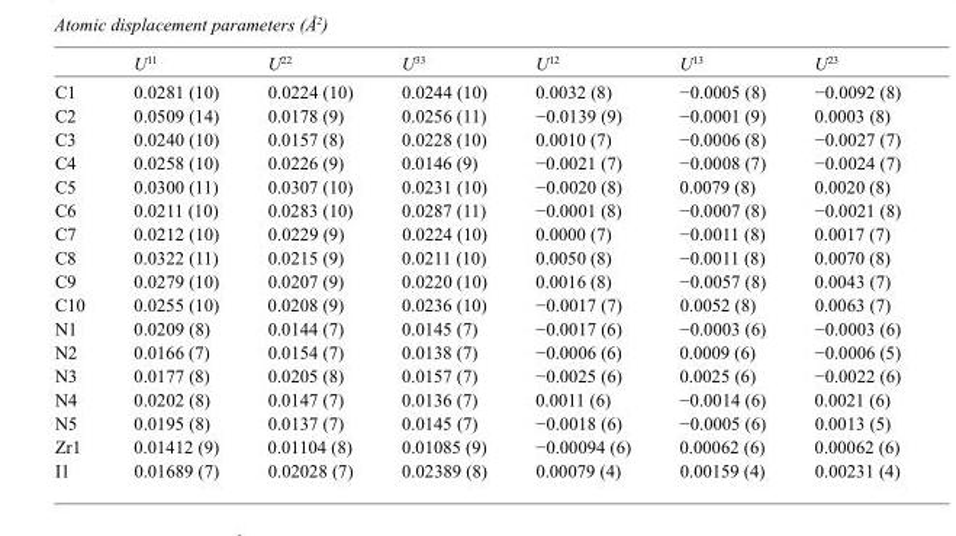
<table><thead><tr><td></td><td>U<sup>11</sup></td><td>U<sup>22</sup></td><td>U<sup>33</sup></td><td>U<sup>12</sup></td><td>U<sup>13</sup></td><td>U<sup>23</sup></td></tr></thead><tbody><tr><td>C1</td><td>0.0281 (10)</td><td>0.0224 (10)</td><td>0.0244 (10)</td><td>0.0032 (8)</td><td>−0.0005 (8)</td><td>−0.0092 (8)</td></tr><tr><td>C2</td><td>0.0509 (14)</td><td>0.0178 (9)</td><td>0.0256 (11)</td><td>−0.0139 (9)</td><td>−0.0001 (9)</td><td>0.0003 (8)</td></tr><tr><td>C3</td><td>0.0240 (10)</td><td>0.0157 (8)</td><td>0.0228 (10)</td><td>0.0010 (7)</td><td>−0.0006 (8)</td><td>−0.0027 (7)</td></tr><tr><td>C4</td><td>0.0258 (10)</td><td>0.0226 (9)</td><td>0.0146 (9)</td><td>−0.0021 (7)</td><td>−0.0008 (7)</td><td>−0.0024 (7)</td></tr><tr><td>C5</td><td>0.0300 (11)</td><td>0.0307 (10)</td><td>0.0231 (10)</td><td>−0.0020 (8)</td><td>0.0079 (8)</td><td>0.0020 (8)</td></tr><tr><td>C6</td><td>0.0211 (10)</td><td>0.0283 (10)</td><td>0.0287 (11)</td><td>−0.0001 (8)</td><td>−0.0007 (8)</td><td>−0.0021 (8)</td></tr><tr><td>C7</td><td>0.0212 (10)</td><td>0.0229 (9)</td><td>0.0224 (10)</td><td>0.0000 (7)</td><td>−0.0011 (8)</td><td>0.0017 (7)</td></tr><tr><td>C8</td><td>0.0322 (11)</td><td>0.0215 (9)</td><td>0.0211 (10)</td><td>0.0050 (8)</td><td>−0.0011 (8)</td><td>0.0070 (8)</td></tr><tr><td>C9</td><td>0.0279 (10)</td><td>0.0207 (9)</td><td>0.0220 (10)</td><td>0.0016 (8)</td><td>−0.0057 (8)</td><td>0.0043 (7)</td></tr><tr><td>C10</td><td>0.0255 (10)</td><td>0.0208 (9)</td><td>0.0236 (10)</td><td>−0.0017 (7)</td><td>0.0052 (8)</td><td>0.0063 (7)</td></tr><tr><td>N1</td><td>0.0209 (8)</td><td>0.0144 (7)</td><td>0.0145 (7)</td><td>−0.0017 (6)</td><td>−0.0003 (6)</td><td>−0.0003 (6)</td></tr><tr><td>N2</td><td>0.0166 (7)</td><td>0.0154 (7)</td><td>0.0138 (7)</td><td>−0.0006 (6)</td><td>0.0009 (6)</td><td>−0.0006 (5)</td></tr><tr><td>N3</td><td>0.0177 (8)</td><td>0.0205 (8)</td><td>0.0157 (7)</td><td>−0.0025 (6)</td><td>0.0025 (6)</td><td>−0.0022 (6)</td></tr><tr><td>N4</td><td>0.0202 (8)</td><td>0.0147 (7)</td><td>0.0136 (7)</td><td>0.0011 (6)</td><td>−0.0014 (6)</td><td>0.0021 (6)</td></tr><tr><td>N5</td><td>0.0195 (8)</td><td>0.0137 (7)</td><td>0.0145 (7)</td><td>−0.0018 (6)</td><td>−0.0005 (6)</td><td>0.0013 (5)</td></tr><tr><td>Zr1</td><td>0.01412 (9)</td><td>0.01104 (8)</td><td>0.01085 (9)</td><td>−0.00094 (6)</td><td>0.00062 (6)</td><td>0.00062 (6)</td></tr><tr><td>I1</td><td>0.01689 (7)</td><td>0.02028 (7)</td><td>0.02389 (8)</td><td>0.00079 (4)</td><td>0.00159 (4)</td><td>0.00231 (4)</td></tr></tbody></table>